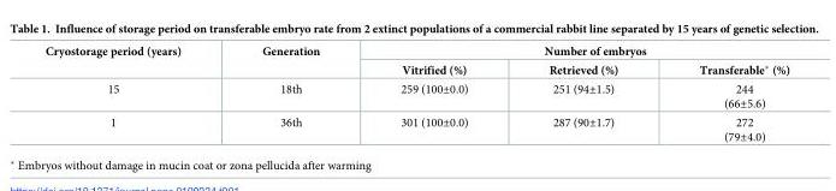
<table><thead><tr><td rowspan="2">Cryostorage period (years)</td><td rowspan="2">Generation</td><td colspan="3">Number of embryos</td></tr><tr><td>Vitrified (%)</td><td>Retrieved (%)</td><td>Transferable* (%)</td></tr></thead><tbody><tr><td>15</td><td>18th</td><td>259 (100±0.0)</td><td>251 (94±1.5)</td><td>244 (66±5.6)</td></tr><tr><td>1</td><td>36th</td><td>301 (100±0.0)</td><td>287 (90±1.7)</td><td>272 (79±4.0)</td></tr></tbody></table>